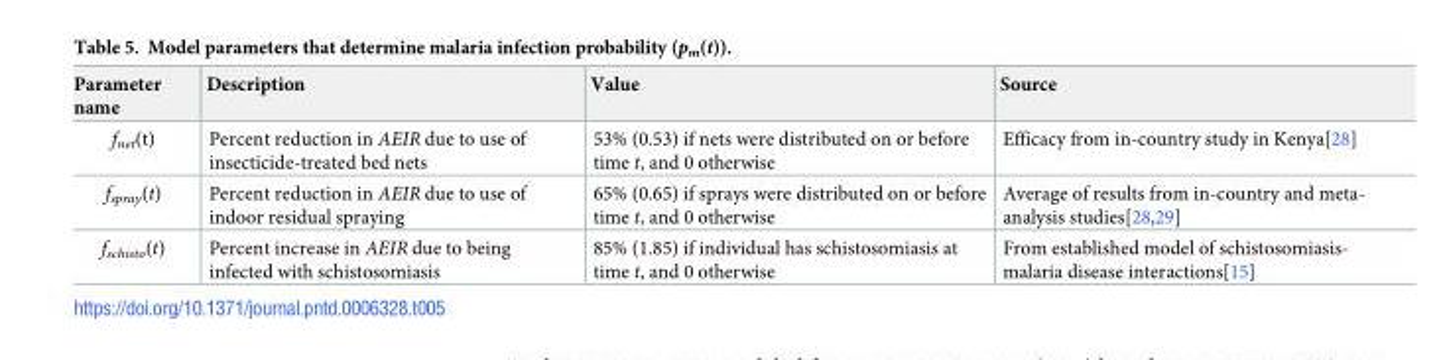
<table><thead><tr><td>Parameter name</td><td>Description</td><td>Value</td><td>Source</td></tr></thead><tbody><tr><td>f<sub>net</sub>(t)</td><td>Percent reduction in AEIR due to use of insecticide-treated bed nets</td><td>53% (0.53) if nets were distributed on or before time t, and 0 otherwise</td><td>Efficacy from in-country study in Kenya[28]</td></tr><tr><td>f<sub>spray</sub>(t)</td><td>Percent reduction in AEIR due to use of indoor residual spraying</td><td>65% (0.65) if sprays were distributed on or before time t, and 0 otherwise</td><td>Average of results from in-country and meta- analysis studies[28,29]</td></tr><tr><td>f<sub>schisto</sub>(t)</td><td>Percent increase in AEIR due to being infected with schistosomiasis</td><td>85% (1.85) if individual has schistosomiasis at time t, and 0 otherwise</td><td>From established model of schistosomiasis- malaria disease interactions[15]</td></tr></tbody></table>